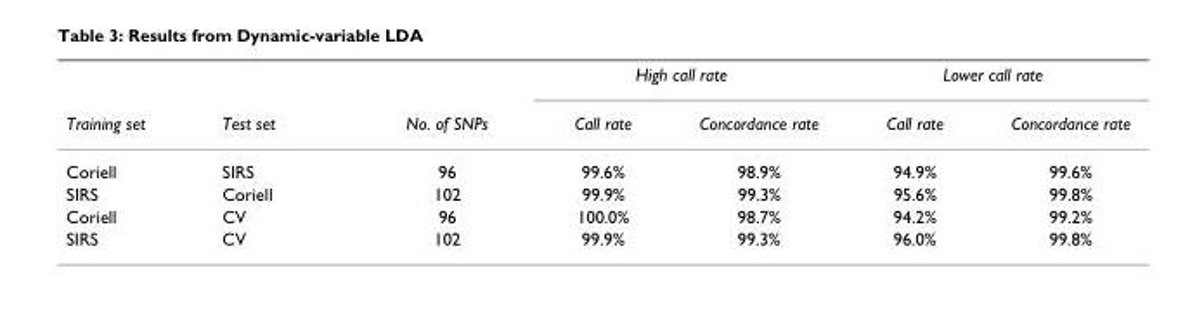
<table><thead><tr><td rowspan="2">Training set</td><td rowspan="2">Test set</td><td rowspan="2">No. of SNPs</td><td colspan="2">High call rate</td><td colspan="2">Lower call rate</td></tr><tr><td>Call rate</td><td>Concordance rate</td><td>Call rate</td><td>Concordance rate</td></tr></thead><tbody><tr><td>Coriell</td><td>SIRS</td><td>96</td><td>99.6%</td><td>98.9%</td><td>94.9%</td><td>99.6%</td></tr><tr><td>SIRS</td><td>Coriell</td><td>102</td><td>99.9%</td><td>99.3%</td><td>95.6%</td><td>99.8%</td></tr><tr><td>Coriell</td><td>CV</td><td>96</td><td>100.0%</td><td>98.7%</td><td>94.2%</td><td>99.2%</td></tr><tr><td>SIRS</td><td>CV</td><td>102</td><td>99.9%</td><td>99.3%</td><td>96.0%</td><td>99.8%</td></tr></tbody></table>